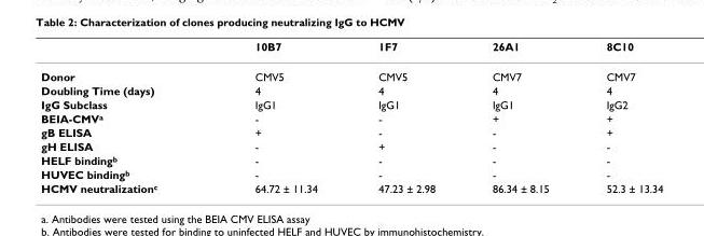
<table><thead><tr><td></td><td>10B7</td><td>1F7</td><td>26A1</td><td>8C10</td></tr></thead><tbody><tr><td>Donor</td><td>CMV5</td><td>CMV5</td><td>CMV7</td><td>CMV7</td></tr><tr><td>Doubling Time (days)</td><td>4</td><td>4</td><td>4</td><td>4</td></tr><tr><td>IgG Subclass</td><td>IgG1</td><td>IgG1</td><td>IgG1</td><td>IgG2</td></tr><tr><td>BEIA-CMV<sup>a</sup></td><td>-</td><td>-</td><td>+</td><td>+</td></tr><tr><td>gB ELISA</td><td>+</td><td>-</td><td>-</td><td>+</td></tr><tr><td>gH ELISA</td><td>-</td><td>+</td><td>-</td><td>-</td></tr><tr><td>HELF binding<sup>b</sup></td><td>-</td><td>-</td><td>-</td><td>-</td></tr><tr><td>HUVEC binding<sup>b</sup></td><td>-</td><td>-</td><td>-</td><td>-</td></tr><tr><td>HCMV neutralization<sup>c</sup></td><td>64.72 ± 11.34</td><td>47.23 ± 2.98</td><td>86.34 ± 8.15</td><td>52.3 ± 13.34</td></tr></tbody></table>